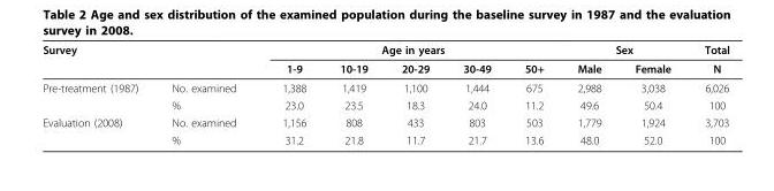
<table><thead><tr><td rowspan="2">Survey</td><td rowspan="2"></td><td colspan="5">Age in years</td><td colspan="2">Sex</td><td rowspan="2">Total N</td></tr><tr><td>1-9</td><td>10-19</td><td>20-29</td><td>30-49</td><td>50+</td><td>Male</td><td>Female</td></tr></thead><tbody><tr><td rowspan="2">Pre-treatment (1987)</td><td>No. examined</td><td>1,388</td><td>1,419</td><td>1,100</td><td>1,444</td><td>675</td><td>2,988</td><td>3,038</td><td>6,026</td></tr><tr><td>%</td><td>23.0</td><td>23.5</td><td>18.3</td><td>24.0</td><td>11.2</td><td>49.6</td><td>50.4</td><td>100</td></tr><tr><td rowspan="2">Evaluation (2008)</td><td>No. examined</td><td>1,156</td><td>808</td><td>433</td><td>803</td><td>503</td><td>1,779</td><td>1,924</td><td>3,703</td></tr><tr><td>%</td><td>31.2</td><td>21.8</td><td>11.7</td><td>21.7</td><td>13.6</td><td>48.0</td><td>52.0</td><td>100</td></tr></tbody></table>